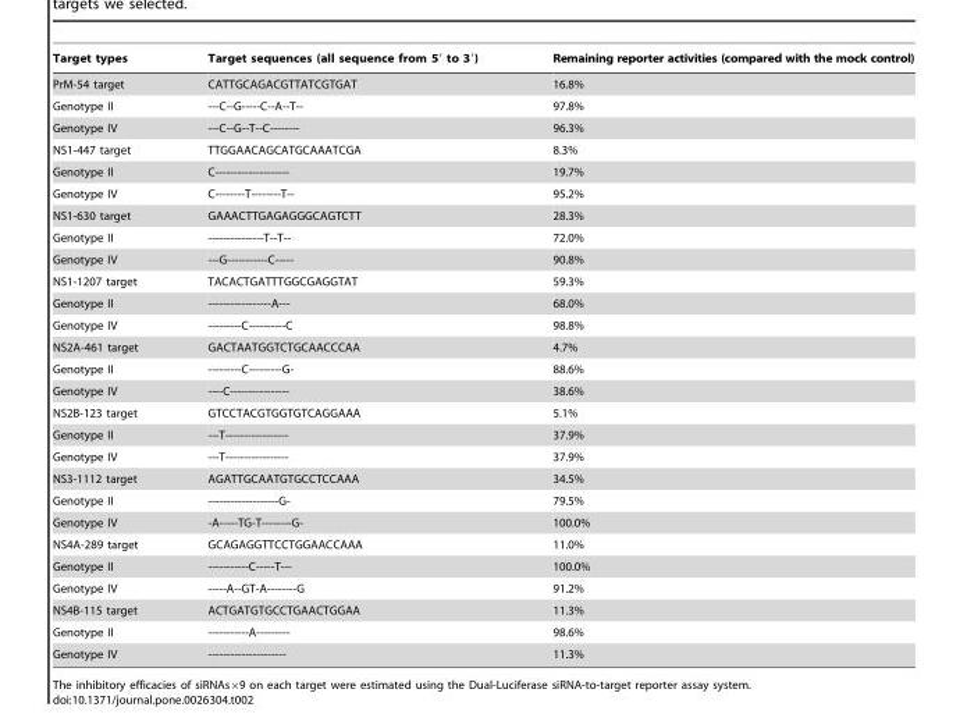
<table><thead><tr><td>Target types</td><td>Target sequences (all sequence from 5′ to 3′)</td><td>Remaining reporter activities (compared with the mock control)</td></tr></thead><tbody><tr><td>PrM-54 target</td><td>CATTGCAGACGTTATCGTGAT</td><td>16.8%</td></tr><tr><td>Genotype II</td><td>---C--G-----C--A--T--</td><td>97.8%</td></tr><tr><td>Genotype IV</td><td>---C--G--T--C--------</td><td>96.3%</td></tr><tr><td>NS1-447 target</td><td>TTGGAACAGCATGCAAATCGA</td><td>8.3%</td></tr><tr><td>Genotype II</td><td>C--------------------</td><td>19.7%</td></tr><tr><td>Genotype IV</td><td>C--------T--------T--</td><td>95.2%</td></tr><tr><td>NS1-630 target</td><td>GAAACTTGAGAGGGCAGTCTT</td><td>28.3%</td></tr><tr><td>Genotype II</td><td>---------------T--T--</td><td>72.0%</td></tr><tr><td>Genotype IV</td><td>---G-----------C-----</td><td>90.8%</td></tr><tr><td>NS1-1207 target</td><td>TACACTGATTTGGCGAGGTAT</td><td>59.3%</td></tr><tr><td>Genotype II</td><td>-----------------A---</td><td>68.0%</td></tr><tr><td>Genotype IV</td><td>---------C----------C</td><td>98.8%</td></tr><tr><td>NS2A-461 target</td><td>GACTAATGGTCTGCAACCCAA</td><td>4.7%</td></tr><tr><td>Genotype II</td><td>---------C---------G-</td><td>88.6%</td></tr><tr><td>Genotype IV</td><td>----C----------------</td><td>38.6%</td></tr><tr><td>NS2B-123 target</td><td>GTCCTACGTGGTGTCAGGAAA</td><td>5.1%</td></tr><tr><td>Genotype II</td><td>---T-----------------</td><td>37.9%</td></tr><tr><td>Genotype IV</td><td>---T-----------------</td><td>37.9%</td></tr><tr><td>NS3-1112 target</td><td>AGATTGCAATGTGCCTCCAAA</td><td>34.5%</td></tr><tr><td>Genotype II</td><td>-------------------G-</td><td>79.5%</td></tr><tr><td>Genotype IV</td><td>-A-----TG-T--------G-</td><td>100.0%</td></tr><tr><td>NS4A-289 target</td><td>GCAGAGGTTCCTGGAACCAAA</td><td>11.0%</td></tr><tr><td>Genotype II</td><td>-----------C-----T---</td><td>100.0%</td></tr><tr><td>Genotype IV</td><td>-----A--GT-A--------G</td><td>91.2%</td></tr><tr><td>NS4B-115 target</td><td>ACTGATGTGCCTGAACTGGAA</td><td>11.3%</td></tr><tr><td>Genotype II</td><td>-----------A---------</td><td>98.6%</td></tr><tr><td>Genotype IV</td><td>---------------------</td><td>11.3%</td></tr></tbody></table>